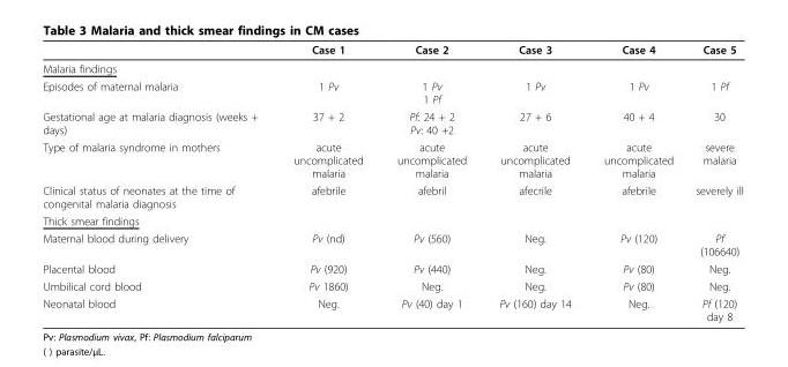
<table><thead><tr><td></td><td>Case 1</td><td>Case 2</td><td>Case 3</td><td>Case 4</td><td>Case 5</td></tr></thead><tbody><tr><td colspan="6">Malaria findings</td></tr><tr><td>Episodes of maternal malaria</td><td>1 Pv</td><td>1 Pv 1 Pf</td><td>1 Pv</td><td>1 Pv</td><td>1 Pf</td></tr><tr><td>Gestational age at malaria diagnosis (weeks + days)</td><td>37 + 2</td><td>Pf: 24 + 2 Pv: 40 +2</td><td>27 + 6</td><td>40 + 4</td><td>30</td></tr><tr><td>Type of malaria syndrome in mothers</td><td>acute uncomplicated malaria</td><td>acute uncomplicated malaria</td><td>acute uncomplicated malaria</td><td>acute uncomplicated malaria</td><td>severe malaria</td></tr><tr><td>Clinical status of neonates at the time of congenital malaria diagnosis</td><td>afebrile</td><td>afebril</td><td>afecrile</td><td>afebrile</td><td>severely ill</td></tr><tr><td colspan="6">Thick smear findings</td></tr><tr><td>Maternal blood during delivery</td><td>Pv (nd)</td><td>Pv (560)</td><td>Neg.</td><td>Pv (120)</td><td>Pf (106640)</td></tr><tr><td>Placental blood</td><td>Pv (920)</td><td>Pv (440)</td><td>Neg.</td><td>Pv (80)</td><td>Neg.</td></tr><tr><td>Umbilical cord blood</td><td>Pv 1860)</td><td>Neg.</td><td>Neg.</td><td>Pv (80)</td><td>Neg.</td></tr><tr><td>Neonatal blood</td><td>Neg.</td><td>Pv (40) day 1</td><td>Pv (160) day 14</td><td>Neg.</td><td>Pf (120) day 8</td></tr></tbody></table>